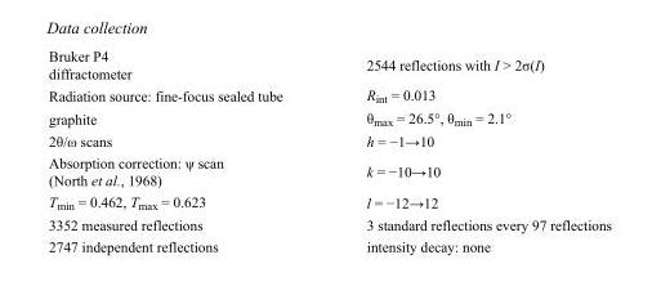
<table><tbody><tr><td>Bruker P4 diffractometer</td><td>2544 reflections with I &gt; 2σ(I)</td></tr><tr><td>Radiation source: fine-focus sealed tube</td><td>R<sub>int</sub> = 0.013</td></tr><tr><td>graphite</td><td>θ<sub>max</sub> = 26.5°, θ<sub>min</sub> = 2.1°</td></tr><tr><td>2θ/ω scans</td><td>h = −1→10</td></tr><tr><td>Absorption correction: ψ scan (North et al., 1968)</td><td>k = −10→10</td></tr><tr><td>T<sub>min</sub> = 0.462, T<sub>max</sub> = 0.623</td><td>l = −12→12</td></tr><tr><td>3352 measured reflections</td><td>3 standard reflections every 97 reflections</td></tr><tr><td>2747 independent reflections</td><td>intensity decay: none</td></tr></tbody></table>